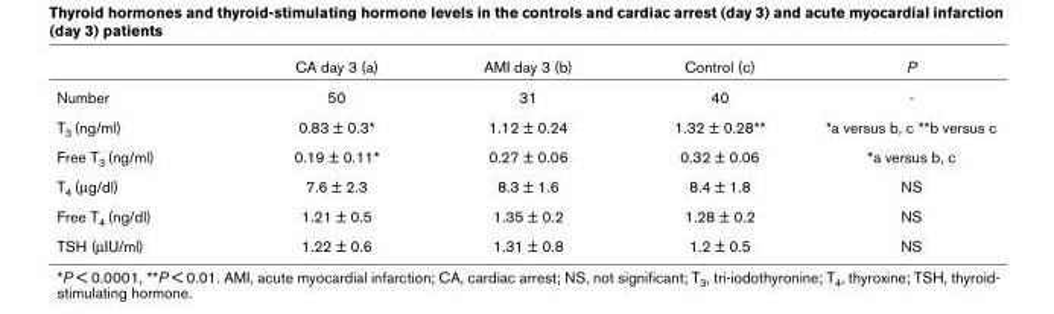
<table><thead><tr><td></td><td>CA day 3 (a)</td><td>AMI day 3 (b)</td><td>Control (c)</td><td>P</td></tr></thead><tbody><tr><td>Number</td><td>50</td><td>31</td><td>40</td><td>-</td></tr><tr><td>T3 (ng/ml)</td><td>0.83 ± 0.3*</td><td>1.12 ± 0.24</td><td>1.32 ± 0.28**</td><td>*a versus b, c **b versus c</td></tr><tr><td>Free T3 (ng/ml)</td><td>0.19 ± 0.11*</td><td>0.27 ± 0.06</td><td>0.32 ± 0.06</td><td>*a versus b, c</td></tr><tr><td>T4 (µg/dl)</td><td>7.6 ± 2.3</td><td>8.3 ± 1.6</td><td>8.4 ± 1.8</td><td>NS</td></tr><tr><td>Free T4 (ng/dl)</td><td>1.21 ± 0.5</td><td>1.35 ± 0.2</td><td>1.28 ± 0.2</td><td>NS</td></tr><tr><td>TSH (µIU/ml)</td><td>1.22 ± 0.6</td><td>1.31 ± 0.8</td><td>1.2 ± 0.5</td><td>NS</td></tr></tbody></table>